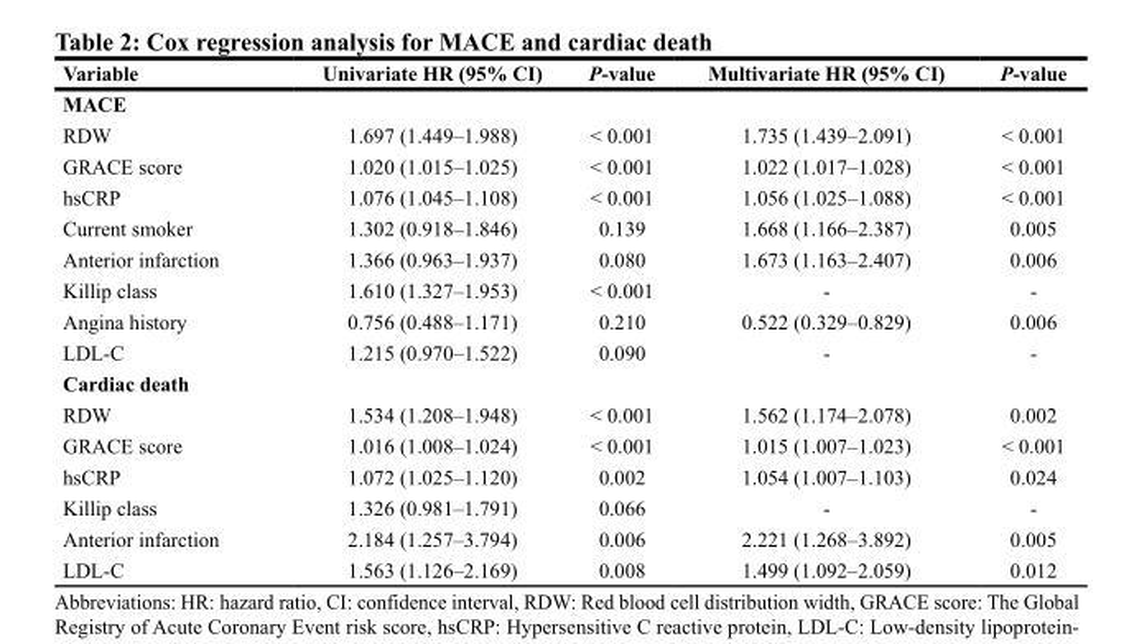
<table><thead><tr><td>Variable</td><td>Univariate HR (95% CI)</td><td>P-value</td><td>Multivariate HR (95% CI)</td><td>P-value</td></tr></thead><tbody><tr><td colspan="5">MACE</td></tr><tr><td>RDW</td><td>1.697 (1.449–1.988)</td><td>&lt; 0.001</td><td>1.735 (1.439–2.091)</td><td>&lt; 0.001</td></tr><tr><td>GRACE score</td><td>1.020 (1.015–1.025)</td><td>&lt; 0.001</td><td>1.022 (1.017–1.028)</td><td>&lt; 0.001</td></tr><tr><td>hsCRP</td><td>1.076 (1.045–1.108)</td><td>&lt; 0.001</td><td>1.056 (1.025–1.088)</td><td>&lt; 0.001</td></tr><tr><td>Current smoker</td><td>1.302 (0.918–1.846)</td><td>0.139</td><td>1.668 (1.166–2.387)</td><td>0.005</td></tr><tr><td>Anterior infarction</td><td>1.366 (0.963–1.937)</td><td>0.080</td><td>1.673 (1.163–2.407)</td><td>0.006</td></tr><tr><td>Killip class</td><td>1.610 (1.327–1.953)</td><td>&lt; 0.001</td><td>-</td><td>-</td></tr><tr><td>Angina history</td><td>0.756 (0.488–1.171)</td><td>0.210</td><td>0.522 (0.329–0.829)</td><td>0.006</td></tr><tr><td>LDL-C</td><td>1.215 (0.970–1.522)</td><td>0.090</td><td>-</td><td>-</td></tr><tr><td colspan="5">Cardiac death</td></tr><tr><td>RDW</td><td>1.534 (1.208–1.948)</td><td>&lt; 0.001</td><td>1.562 (1.174–2.078)</td><td>0.002</td></tr><tr><td>GRACE score</td><td>1.016 (1.008–1.024)</td><td>&lt; 0.001</td><td>1.015 (1.007–1.023)</td><td>&lt; 0.001</td></tr><tr><td>hsCRP</td><td>1.072 (1.025–1.120)</td><td>0.002</td><td>1.054 (1.007–1.103)</td><td>0.024</td></tr><tr><td>Killip class</td><td>1.326 (0.981–1.791)</td><td>0.066</td><td>-</td><td>-</td></tr><tr><td>Anterior infarction</td><td>2.184 (1.257–3.794)</td><td>0.006</td><td>2.221 (1.268–3.892)</td><td>0.005</td></tr><tr><td>LDL-C</td><td>1.563 (1.126–2.169)</td><td>0.008</td><td>1.499 (1.092–2.059)</td><td>0.012</td></tr></tbody></table>